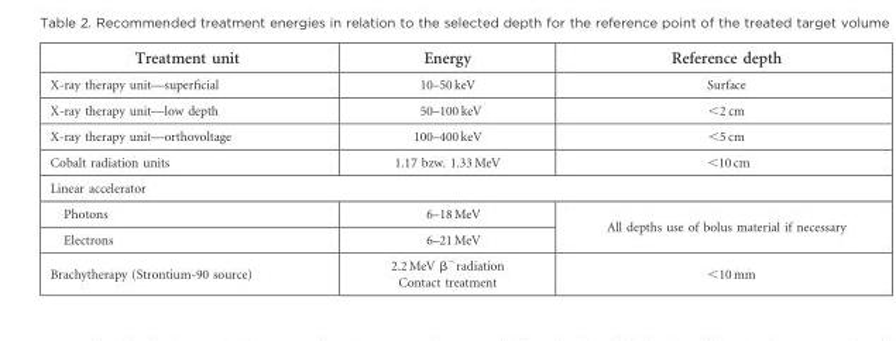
<table><thead><tr><td>Treatment unit</td><td>Energy</td><td>Reference depth</td></tr></thead><tbody><tr><td>X-ray therapy unit—superficial</td><td>10–50 keV</td><td>Surface</td></tr><tr><td>X-ray therapy unit—low depth</td><td>50–100 keV</td><td>&lt;2 cm</td></tr><tr><td>X-ray therapy unit—orthovoltage</td><td>100–400 keV</td><td>&lt;5 cm</td></tr><tr><td>Cobalt radiation units</td><td>1.17 bzw. 1.33 MeV</td><td>&lt;10 cm</td></tr><tr><td colspan="3">Linear accelerator</td></tr><tr><td>Photons</td><td>6–18 MeV</td><td rowspan="2">All depths use of bolus material if necessary</td></tr><tr><td>Electrons</td><td>6–21 MeV</td></tr><tr><td>Brachytherapy (Strontium-90 source)</td><td>2.2 MeV β<sup>−</sup>radiation Contact treatment</td><td>&lt;10 mm</td></tr></tbody></table>